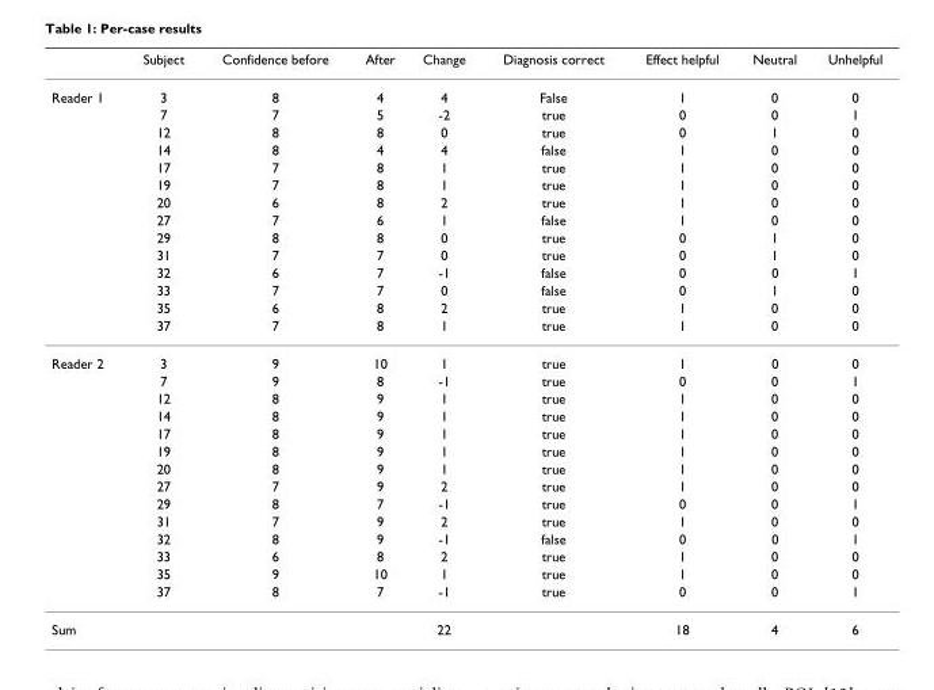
<table><thead><tr><td></td><td>Subject</td><td>Confidence before</td><td>After</td><td>Change</td><td>Diagnosis correct</td><td>Effect helpful</td><td>Neutral</td><td>Unhelpful</td></tr></thead><tbody><tr><td rowspan="14">Reader 1</td><td>3</td><td>8</td><td>4</td><td>4</td><td>False</td><td>1</td><td>0</td><td>0</td></tr><tr><td>7</td><td>7</td><td>5</td><td>-2</td><td>true</td><td>0</td><td>0</td><td>1</td></tr><tr><td>12</td><td>8</td><td>8</td><td>0</td><td>true</td><td>0</td><td>1</td><td>0</td></tr><tr><td>14</td><td>8</td><td>4</td><td>4</td><td>false</td><td>1</td><td>0</td><td>0</td></tr><tr><td>17</td><td>7</td><td>8</td><td>1</td><td>true</td><td>1</td><td>0</td><td>0</td></tr><tr><td>19</td><td>7</td><td>8</td><td>1</td><td>true</td><td>1</td><td>0</td><td>0</td></tr><tr><td>20</td><td>6</td><td>8</td><td>2</td><td>true</td><td>1</td><td>0</td><td>0</td></tr><tr><td>27</td><td>7</td><td>6</td><td>1</td><td>false</td><td>1</td><td>0</td><td>0</td></tr><tr><td>29</td><td>8</td><td>8</td><td>0</td><td>true</td><td>0</td><td>1</td><td>0</td></tr><tr><td>31</td><td>7</td><td>7</td><td>0</td><td>true</td><td>0</td><td>1</td><td>0</td></tr><tr><td>32</td><td>6</td><td>7</td><td>-1</td><td>false</td><td>0</td><td>0</td><td>1</td></tr><tr><td>33</td><td>7</td><td>7</td><td>0</td><td>false</td><td>0</td><td>1</td><td>0</td></tr><tr><td>35</td><td>6</td><td>8</td><td>2</td><td>true</td><td>1</td><td>0</td><td>0</td></tr><tr><td>37</td><td>7</td><td>8</td><td>1</td><td>true</td><td>1</td><td>0</td><td>0</td></tr><tr><td rowspan="14">Reader 2</td><td>3</td><td>9</td><td>10</td><td>1</td><td>true</td><td>1</td><td>0</td><td>0</td></tr><tr><td>7</td><td>9</td><td>8</td><td>-1</td><td>true</td><td>0</td><td>0</td><td>1</td></tr><tr><td>12</td><td>8</td><td>9</td><td>1</td><td>true</td><td>1</td><td>0</td><td>0</td></tr><tr><td>14</td><td>8</td><td>9</td><td>1</td><td>true</td><td>1</td><td>0</td><td>0</td></tr><tr><td>17</td><td>8</td><td>9</td><td>1</td><td>true</td><td>1</td><td>0</td><td>0</td></tr><tr><td>19</td><td>8</td><td>9</td><td>1</td><td>true</td><td>1</td><td>0</td><td>0</td></tr><tr><td>20</td><td>8</td><td>9</td><td>1</td><td>true</td><td>1</td><td>0</td><td>0</td></tr><tr><td>27</td><td>7</td><td>9</td><td>2</td><td>true</td><td>1</td><td>0</td><td>0</td></tr><tr><td>29</td><td>8</td><td>7</td><td>-1</td><td>true</td><td>0</td><td>0</td><td>1</td></tr><tr><td>31</td><td>7</td><td>9</td><td>2</td><td>true</td><td>1</td><td>0</td><td>0</td></tr><tr><td>32</td><td>8</td><td>9</td><td>-1</td><td>false</td><td>0</td><td>0</td><td>1</td></tr><tr><td>33</td><td>6</td><td>8</td><td>2</td><td>true</td><td>1</td><td>0</td><td>0</td></tr><tr><td>35</td><td>9</td><td>10</td><td>1</td><td>true</td><td>1</td><td>0</td><td>0</td></tr><tr><td>37</td><td>8</td><td>7</td><td>-1</td><td>true</td><td>0</td><td>0</td><td>1</td></tr><tr><td>Sum</td><td></td><td></td><td></td><td>22</td><td></td><td>18</td><td>4</td><td>6</td></tr></tbody></table>